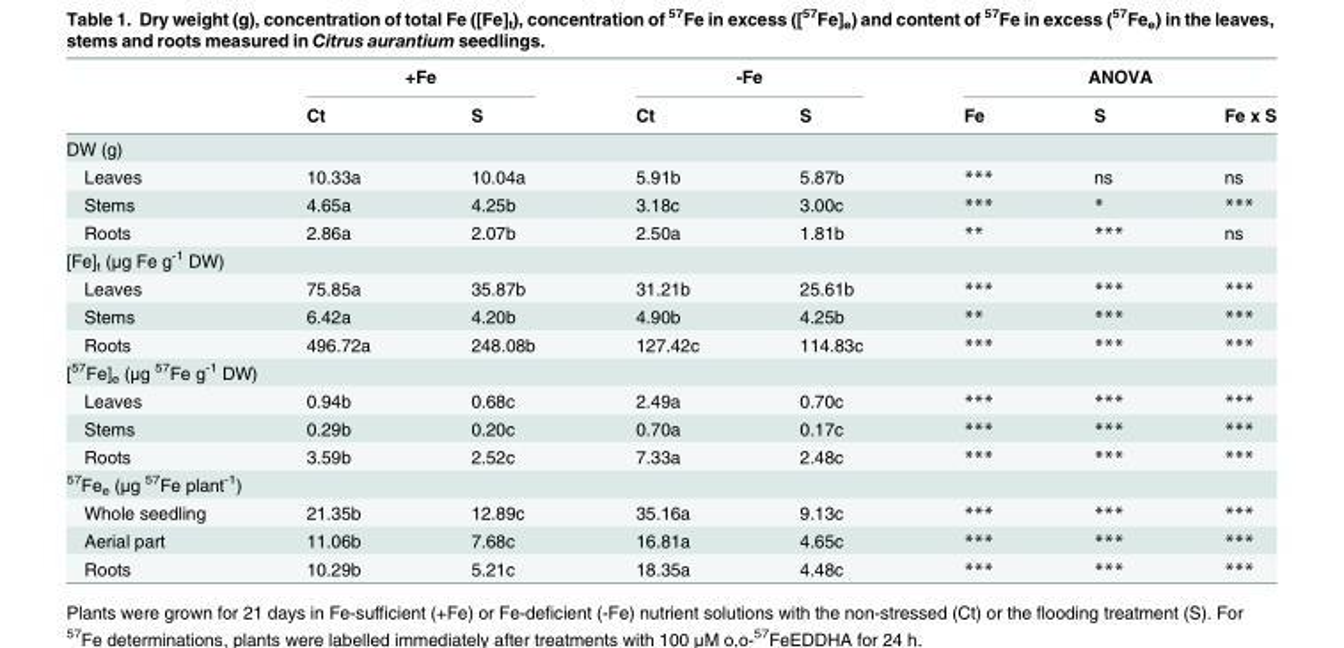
<table><thead><tr><td rowspan="2"></td><td colspan="2">+Fe</td><td colspan="2">-Fe</td><td colspan="3">ANOVA</td></tr><tr><td>Ct</td><td>S</td><td>Ct</td><td>S</td><td>Fe</td><td>S</td><td>Fe x S</td></tr></thead><tbody><tr><td colspan="8">DW (g)</td></tr><tr><td>Leaves</td><td>10.33a</td><td>10.04a</td><td>5.91b</td><td>5.87b</td><td>***</td><td>ns</td><td>ns</td></tr><tr><td>Stems</td><td>4.65a</td><td>4.25b</td><td>3.18c</td><td>3.00c</td><td>***</td><td>*</td><td>***</td></tr><tr><td>Roots</td><td>2.86a</td><td>2.07b</td><td>2.50a</td><td>1.81b</td><td>**</td><td>***</td><td>ns</td></tr><tr><td colspan="8">[Fe]<sub>t</sub> (μg Fe g<sup>-1</sup> DW)</td></tr><tr><td>Leaves</td><td>75.85a</td><td>35.87b</td><td>31.21b</td><td>25.61b</td><td>***</td><td>***</td><td>***</td></tr><tr><td>Stems</td><td>6.42a</td><td>4.20b</td><td>4.90b</td><td>4.25b</td><td>**</td><td>***</td><td>***</td></tr><tr><td>Roots</td><td>496.72a</td><td>248.08b</td><td>127.42c</td><td>114.83c</td><td>***</td><td>***</td><td>***</td></tr><tr><td colspan="8">[<sup>57</sup>Fe]<sub>e</sub> (μg <sup>57</sup>Fe g<sup>-1</sup> DW)</td></tr><tr><td>Leaves</td><td>0.94b</td><td>0.68c</td><td>2.49a</td><td>0.70c</td><td>***</td><td>***</td><td>***</td></tr><tr><td>Stems</td><td>0.29b</td><td>0.20c</td><td>0.70a</td><td>0.17c</td><td>***</td><td>***</td><td>***</td></tr><tr><td>Roots</td><td>3.59b</td><td>2.52c</td><td>7.33a</td><td>2.48c</td><td>***</td><td>***</td><td>***</td></tr><tr><td colspan="8"><sup>57</sup>Fe<sub>e</sub> (μg <sup>57</sup>Fe plant<sup>-1</sup>)</td></tr><tr><td>Whole seedling</td><td>21.35b</td><td>12.89c</td><td>35.16a</td><td>9.13c</td><td>***</td><td>***</td><td>***</td></tr><tr><td>Aerial part</td><td>11.06b</td><td>7.68c</td><td>16.81a</td><td>4.65c</td><td>***</td><td>***</td><td>***</td></tr><tr><td>Roots</td><td>10.29b</td><td>5.21c</td><td>18.35a</td><td>4.48c</td><td>***</td><td>***</td><td>***</td></tr></tbody></table>